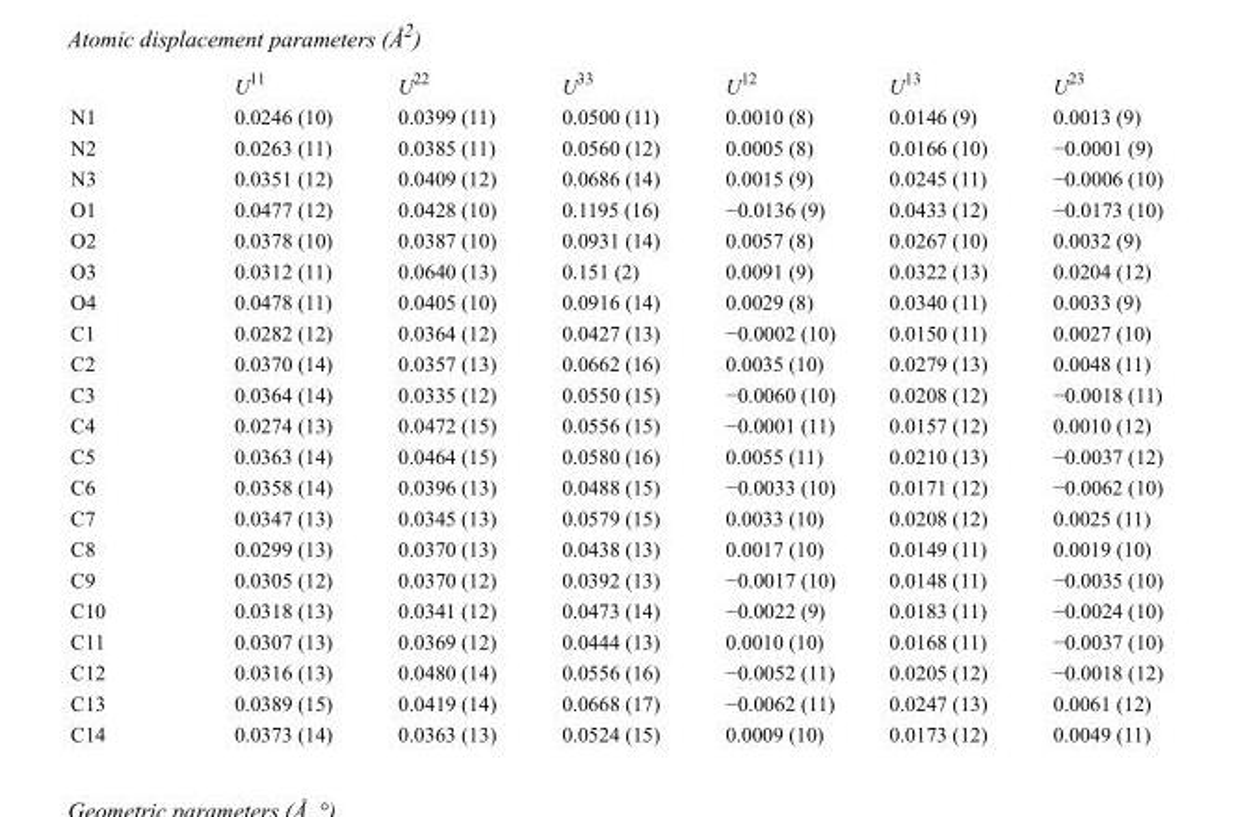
<table><thead><tr><td></td><td>U<sup>11</sup></td><td>U<sup>22</sup></td><td>U<sup>33</sup></td><td>U<sup>12</sup></td><td>U<sup>13</sup></td><td>U<sup>23</sup></td></tr></thead><tbody><tr><td>N1</td><td>0.0246 (10)</td><td>0.0399 (11)</td><td>0.0500 (11)</td><td>0.0010 (8)</td><td>0.0146 (9)</td><td>0.0013 (9)</td></tr><tr><td>N2</td><td>0.0263 (11)</td><td>0.0385 (11)</td><td>0.0560 (12)</td><td>0.0005 (8)</td><td>0.0166 (10)</td><td>−0.0001 (9)</td></tr><tr><td>N3</td><td>0.0351 (12)</td><td>0.0409 (12)</td><td>0.0686 (14)</td><td>0.0015 (9)</td><td>0.0245 (11)</td><td>−0.0006 (10)</td></tr><tr><td>O1</td><td>0.0477 (12)</td><td>0.0428 (10)</td><td>0.1195 (16)</td><td>−0.0136 (9)</td><td>0.0433 (12)</td><td>−0.0173 (10)</td></tr><tr><td>O2</td><td>0.0378 (10)</td><td>0.0387 (10)</td><td>0.0931 (14)</td><td>0.0057 (8)</td><td>0.0267 (10)</td><td>0.0032 (9)</td></tr><tr><td>O3</td><td>0.0312 (11)</td><td>0.0640 (13)</td><td>0.151 (2)</td><td>0.0091 (9)</td><td>0.0322 (13)</td><td>0.0204 (12)</td></tr><tr><td>O4</td><td>0.0478 (11)</td><td>0.0405 (10)</td><td>0.0916 (14)</td><td>0.0029 (8)</td><td>0.0340 (11)</td><td>0.0033 (9)</td></tr><tr><td>C1</td><td>0.0282 (12)</td><td>0.0364 (12)</td><td>0.0427 (13)</td><td>−0.0002 (10)</td><td>0.0150 (11)</td><td>0.0027 (10)</td></tr><tr><td>C2</td><td>0.0370 (14)</td><td>0.0357 (13)</td><td>0.0662 (16)</td><td>0.0035 (10)</td><td>0.0279 (13)</td><td>0.0048 (11)</td></tr><tr><td>C3</td><td>0.0364 (14)</td><td>0.0335 (12)</td><td>0.0550 (15)</td><td>−0.0060 (10)</td><td>0.0208 (12)</td><td>−0.0018 (11)</td></tr><tr><td>C4</td><td>0.0274 (13)</td><td>0.0472 (15)</td><td>0.0556 (15)</td><td>−0.0001 (11)</td><td>0.0157 (12)</td><td>0.0010 (12)</td></tr><tr><td>C5</td><td>0.0363 (14)</td><td>0.0464 (15)</td><td>0.0580 (16)</td><td>0.0055 (11)</td><td>0.0210 (13)</td><td>−0.0037 (12)</td></tr><tr><td>C6</td><td>0.0358 (14)</td><td>0.0396 (13)</td><td>0.0488 (15)</td><td>−0.0033 (10)</td><td>0.0171 (12)</td><td>−0.0062 (10)</td></tr><tr><td>C7</td><td>0.0347 (13)</td><td>0.0345 (13)</td><td>0.0579 (15)</td><td>0.0033 (10)</td><td>0.0208 (12)</td><td>0.0025 (11)</td></tr><tr><td>C8</td><td>0.0299 (13)</td><td>0.0370 (13)</td><td>0.0438 (13)</td><td>0.0017 (10)</td><td>0.0149 (11)</td><td>0.0019 (10)</td></tr><tr><td>C9</td><td>0.0305 (12)</td><td>0.0370 (12)</td><td>0.0392 (13)</td><td>−0.0017 (10)</td><td>0.0148 (11)</td><td>−0.0035 (10)</td></tr><tr><td>C10</td><td>0.0318 (13)</td><td>0.0341 (12)</td><td>0.0473 (14)</td><td>−0.0022 (9)</td><td>0.0183 (11)</td><td>−0.0024 (10)</td></tr><tr><td>C11</td><td>0.0307 (13)</td><td>0.0369 (12)</td><td>0.0444 (13)</td><td>0.0010 (10)</td><td>0.0168 (11)</td><td>−0.0037 (10)</td></tr><tr><td>C12</td><td>0.0316 (13)</td><td>0.0480 (14)</td><td>0.0556 (16)</td><td>−0.0052 (11)</td><td>0.0205 (12)</td><td>−0.0018 (12)</td></tr><tr><td>C13</td><td>0.0389 (15)</td><td>0.0419 (14)</td><td>0.0668 (17)</td><td>−0.0062 (11)</td><td>0.0247 (13)</td><td>0.0061 (12)</td></tr><tr><td>C14</td><td>0.0373 (14)</td><td>0.0363 (13)</td><td>0.0524 (15)</td><td>0.0009 (10)</td><td>0.0173 (12)</td><td>0.0049 (11)</td></tr></tbody></table>